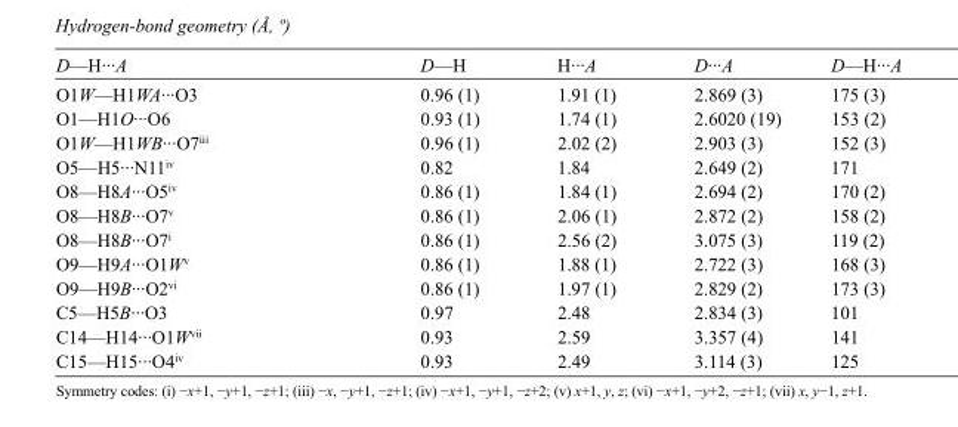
<table><tbody><tr><td>D—H···A</td><td>D—H</td><td>H···A</td><td>D···A</td><td>D—H···A</td></tr><tr><td>O1W—H1WA···O3</td><td>0.96 (1)</td><td>1.91 (1)</td><td>2.869 (3)</td><td>175 (3)</td></tr><tr><td>O1—H1O···O6</td><td>0.93 (1)</td><td>1.74 (1)</td><td>2.6020 (19)</td><td>153 (2)</td></tr><tr><td>O1W—H1WB···O7<sup>iii</sup></td><td>0.96 (1)</td><td>2.02 (2)</td><td>2.903 (3)</td><td>152 (3)</td></tr><tr><td>O5—H5···N11<sup>iv</sup></td><td>0.82</td><td>1.84</td><td>2.649 (2)</td><td>171</td></tr><tr><td>O8—H8A···O5<sup>iv</sup></td><td>0.86 (1)</td><td>1.84 (1)</td><td>2.694 (2)</td><td>170 (2)</td></tr><tr><td>O8—H8B···O7<sup>v</sup></td><td>0.86 (1)</td><td>2.06 (1)</td><td>2.872 (2)</td><td>158 (2)</td></tr><tr><td>O8—H8B···O7<sup>i</sup></td><td>0.86 (1)</td><td>2.56 (2)</td><td>3.075 (3)</td><td>119 (2)</td></tr><tr><td>O9—H9A···O1W<sup>v</sup></td><td>0.86 (1)</td><td>1.88 (1)</td><td>2.722 (3)</td><td>168 (3)</td></tr><tr><td>O9—H9B···O2<sup>vi</sup></td><td>0.86 (1)</td><td>1.97 (1)</td><td>2.829 (2)</td><td>173 (3)</td></tr><tr><td>C5—H5B···O3</td><td>0.97</td><td>2.48</td><td>2.834 (3)</td><td>101</td></tr><tr><td>C14—H14···O1W<sup>vii</sup></td><td>0.93</td><td>2.59</td><td>3.357 (4)</td><td>141</td></tr><tr><td>C15—H15···O4<sup>iv</sup></td><td>0.93</td><td>2.49</td><td>3.114 (3)</td><td>125</td></tr></tbody></table>